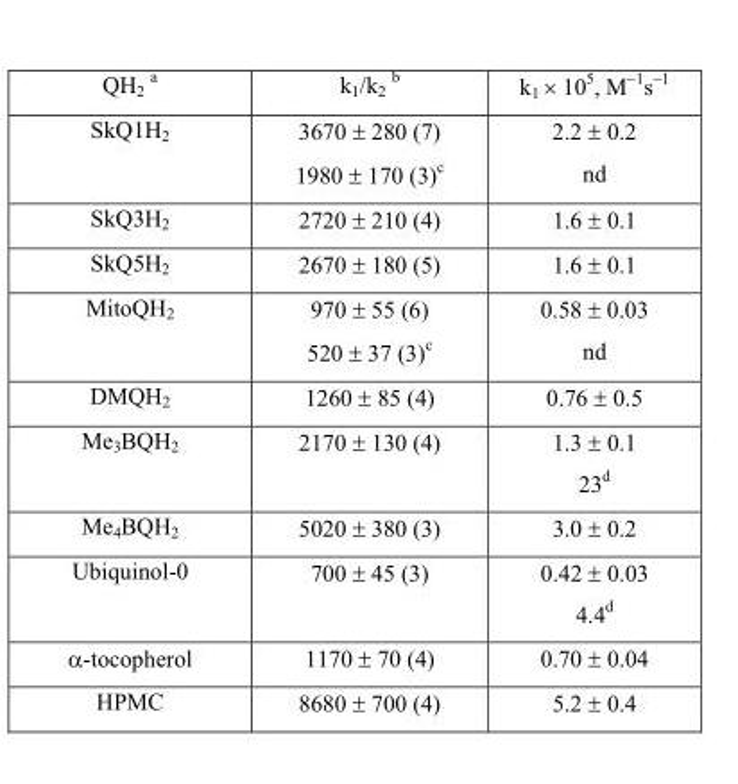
<table><thead><tr><td>QH<sub>2</sub> <sup>a</sup></td><td>k<sub>1</sub>/k<sub>2</sub> <sup>b</sup></td><td>k<sub>1</sub> × 10<sup>5</sup>, M<sup>−1</sup>s<sup>−1</sup></td></tr></thead><tbody><tr><td>SkQ1H<sub>2</sub></td><td>3670 ± 280 (7) 1980 ± 170 (3)<sup>c</sup></td><td>2.2 ± 0.2 nd</td></tr><tr><td>SkQ3H<sub>2</sub></td><td>2720 ± 210 (4)</td><td>1.6 ± 0.1</td></tr><tr><td>SkQ5H<sub>2</sub></td><td>2670 ± 180 (5)</td><td>1.6 ± 0.1</td></tr><tr><td>MitoQH<sub>2</sub></td><td>970 ± 55 (6) 520 ± 37 (3)<sup>c</sup></td><td>0.58 ± 0.03 nd</td></tr><tr><td>DMQH<sub>2</sub></td><td>1260 ± 85 (4)</td><td>0.76 ± 0.5</td></tr><tr><td>Me<sub>3</sub>BQH<sub>2</sub></td><td>2170 ± 130 (4)</td><td>1.3 ± 0.1 23<sup>d</sup></td></tr><tr><td>Me<sub>4</sub>BQH<sub>2</sub></td><td>5020 ± 380 (3)</td><td>3.0 ± 0.2</td></tr><tr><td>Ubiquinol-0</td><td>700 ± 45 (3)</td><td>0.42 ± 0.03 4.4<sup>d</sup></td></tr><tr><td>α-tocopherol</td><td>1170 ± 70 (4)</td><td>0.70 ± 0.04</td></tr><tr><td>HPMC</td><td>8680 ± 700 (4)</td><td>5.2 ± 0.4</td></tr></tbody></table>